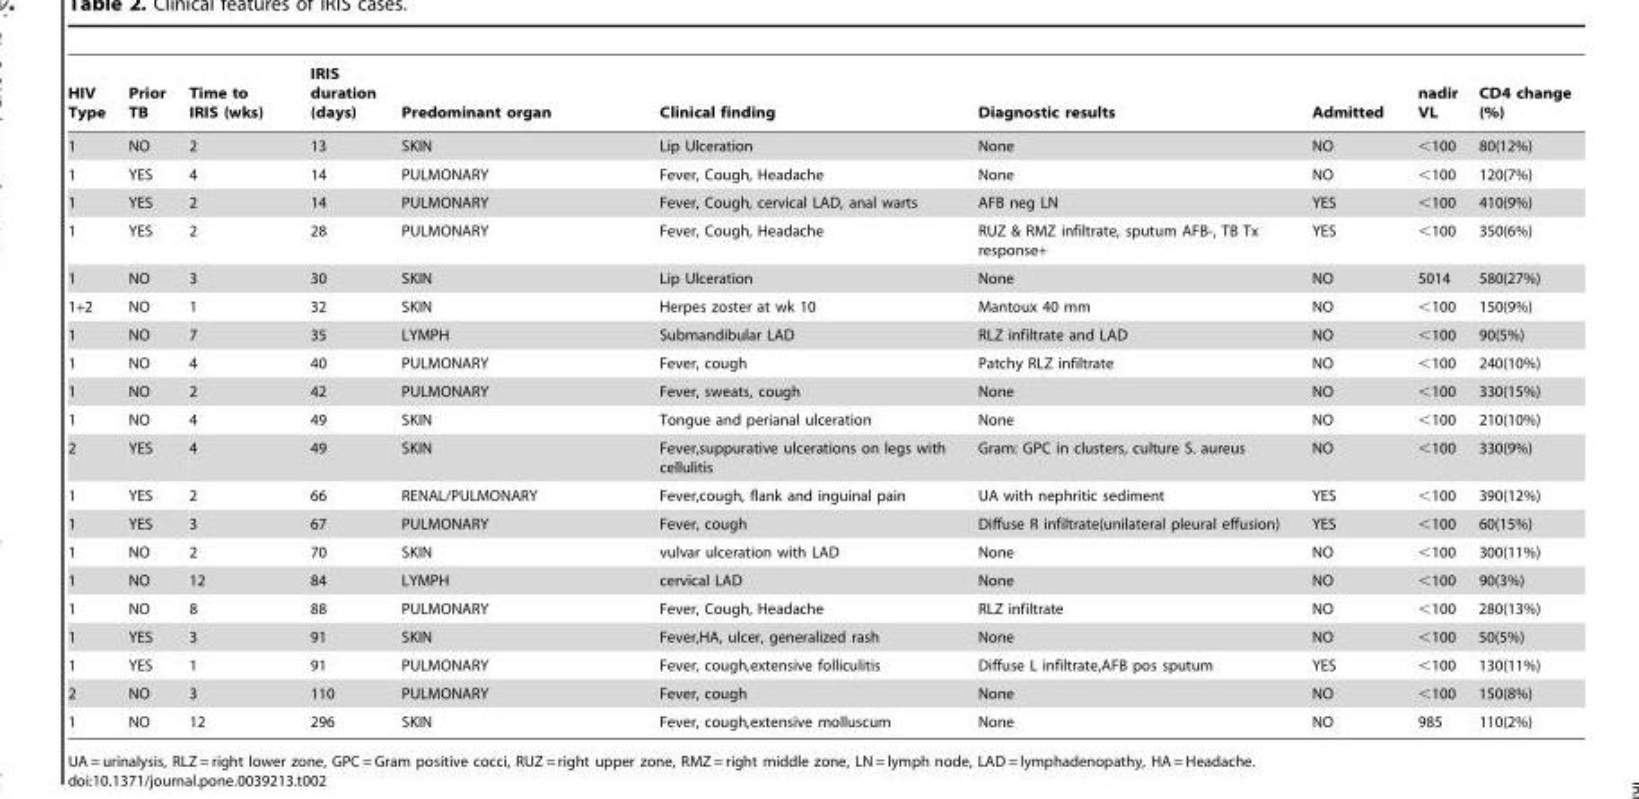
<table><thead><tr><td>HIV Type</td><td>Prior TB</td><td>Time to IRIS (wks)</td><td>IRIS duration (days)</td><td>Predominant organ</td><td>Clinical finding</td><td>Diagnostic results</td><td>Admitted</td><td>nadir VL</td><td>CD4 change (%)</td></tr></thead><tbody><tr><td>1</td><td>NO</td><td>2</td><td>13</td><td>SKIN</td><td>Lip Ulceration</td><td>None</td><td>NO</td><td>&lt;100</td><td>80(12%)</td></tr><tr><td>1</td><td>YES</td><td>4</td><td>14</td><td>PULMONARY</td><td>Fever, Cough, Headache</td><td>None</td><td>NO</td><td>&lt;100</td><td>120(7%)</td></tr><tr><td>1</td><td>YES</td><td>2</td><td>14</td><td>PULMONARY</td><td>Fever, Cough, cervical LAD, anal warts</td><td>AFB neg LN</td><td>YES</td><td>&lt;100</td><td>410(9%)</td></tr><tr><td>1</td><td>YES</td><td>2</td><td>28</td><td>PULMONARY</td><td>Fever, Cough, Headache</td><td>RUZ &amp; RMZ infiltrate, sputum AFB-, TB Tx response+</td><td>YES</td><td>&lt;100</td><td>350(6%)</td></tr><tr><td>1</td><td>NO</td><td>3</td><td>30</td><td>SKIN</td><td>Lip Ulceration</td><td>None</td><td>NO</td><td>5014</td><td>580(27%)</td></tr><tr><td>1+2</td><td>NO</td><td>1</td><td>32</td><td>SKIN</td><td>Herpes zoster at wk 10</td><td>Mantoux 40 mm</td><td>NO</td><td>&lt;100</td><td>150(9%)</td></tr><tr><td>1</td><td>NO</td><td>7</td><td>35</td><td>LYMPH</td><td>Submandibular LAD</td><td>RLZ infiltrate and LAD</td><td>NO</td><td>&lt;100</td><td>90(5%)</td></tr><tr><td>1</td><td>NO</td><td>4</td><td>40</td><td>PULMONARY</td><td>Fever, cough</td><td>Patchy RLZ infiltrate</td><td>NO</td><td>&lt;100</td><td>240(10%)</td></tr><tr><td>1</td><td>NO</td><td>2</td><td>42</td><td>PULMONARY</td><td>Fever, sweats, cough</td><td>None</td><td>NO</td><td>&lt;100</td><td>330(15%)</td></tr><tr><td>1</td><td>NO</td><td>4</td><td>49</td><td>SKIN</td><td>Tongue and perianal ulceration</td><td>None</td><td>NO</td><td>&lt;100</td><td>210(10%)</td></tr><tr><td>2</td><td>YES</td><td>4</td><td>49</td><td>SKIN</td><td>Fever,suppurative ulcerations on legs with cellulitis</td><td>Gram: GPC in clusters, culture S. aureus</td><td>NO</td><td>&lt;100</td><td>330(9%)</td></tr><tr><td>1</td><td>YES</td><td>2</td><td>66</td><td>RENAL/PULMONARY</td><td>Fever,cough, flank and inguinal pain</td><td>UA with nephritic sediment</td><td>YES</td><td>&lt;100</td><td>390(12%)</td></tr><tr><td>1</td><td>YES</td><td>3</td><td>67</td><td>PULMONARY</td><td>Fever, cough</td><td>Diffuse R infiltrate(unilateral pleural effusion)</td><td>YES</td><td>&lt;100</td><td>60(15%)</td></tr><tr><td>1</td><td>NO</td><td>2</td><td>70</td><td>SKIN</td><td>vulvar ulceration with LAD</td><td>None</td><td>NO</td><td>&lt;100</td><td>300(11%)</td></tr><tr><td>1</td><td>NO</td><td>12</td><td>84</td><td>LYMPH</td><td>cervical LAD</td><td>None</td><td>NO</td><td>&lt;100</td><td>90(3%)</td></tr><tr><td>1</td><td>NO</td><td>8</td><td>88</td><td>PULMONARY</td><td>Fever, Cough, Headache</td><td>RLZ infiltrate</td><td>NO</td><td>&lt;100</td><td>280(13%)</td></tr><tr><td>1</td><td>YES</td><td>3</td><td>91</td><td>SKIN</td><td>Fever,HA, ulcer, generalized rash</td><td>None</td><td>NO</td><td>&lt;100</td><td>50(5%)</td></tr><tr><td>1</td><td>YES</td><td>1</td><td>91</td><td>PULMONARY</td><td>Fever, cough,extensive folliculitis</td><td>Diffuse L infiltrate,AFB pos sputum</td><td>YES</td><td>&lt;100</td><td>130(11%)</td></tr><tr><td>2</td><td>NO</td><td>3</td><td>110</td><td>PULMONARY</td><td>Fever, cough</td><td>None</td><td>NO</td><td>&lt;100</td><td>150(8%)</td></tr><tr><td>1</td><td>NO</td><td>12</td><td>296</td><td>SKIN</td><td>Fever, cough,extensive molluscum</td><td>None</td><td>NO</td><td>985</td><td>110(2%)</td></tr></tbody></table>